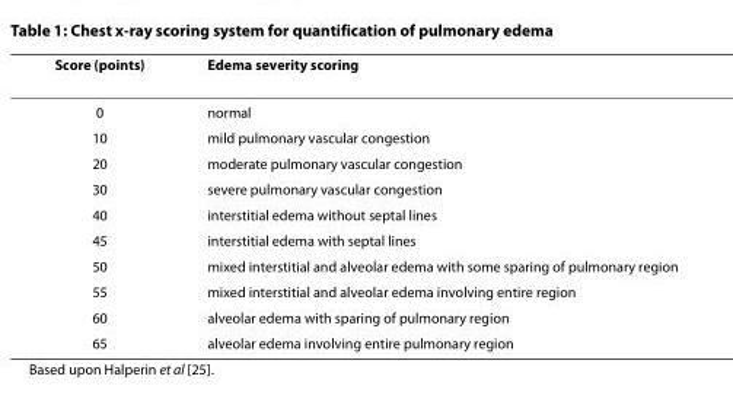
<table><thead><tr><td>Score (points)</td><td>Edema severity scoring</td></tr></thead><tbody><tr><td>0</td><td>normal</td></tr><tr><td>10</td><td>mild pulmonary vascular congestion</td></tr><tr><td>20</td><td>moderate pulmonary vascular congestion</td></tr><tr><td>30</td><td>severe pulmonary vascular congestion</td></tr><tr><td>40</td><td>interstitial edema without septal lines</td></tr><tr><td>45</td><td>interstitial edema with septal lines</td></tr><tr><td>50</td><td>mixed interstitial and alveolar edema with some sparing of pulmonary region</td></tr><tr><td>55</td><td>mixed interstitial and alveolar edema involving entire region</td></tr><tr><td>60</td><td>alveolar edema with sparing of pulmonary region</td></tr><tr><td>65</td><td>alveolar edema involving entire pulmonary region</td></tr></tbody></table>